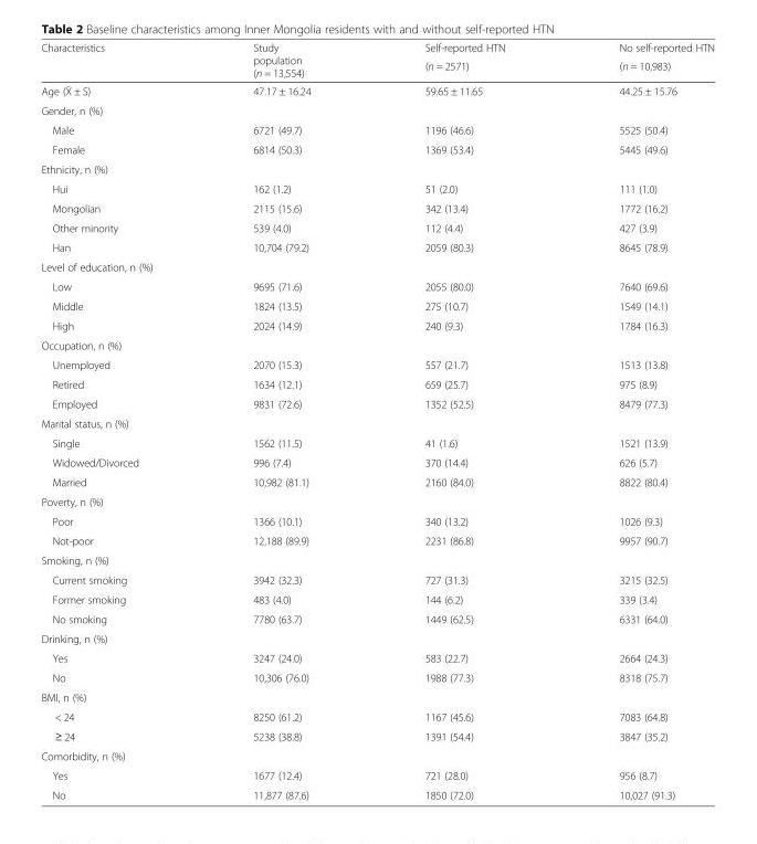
<table><thead><tr><td rowspan="2">Characteristics</td><td rowspan="2">Study population (n = 13,554)</td><td rowspan="2">Self-reported HTN (n = 2571)</td><td rowspan="2">No self-reported HTN (n = 10,983)</td></tr><tr></tr></thead><tbody><tr><td>Age (X̄ ± S)</td><td>47.17 ± 16.24</td><td>59.65 ± 11.65</td><td>44.25 ± 15.76</td></tr><tr><td colspan="4">Gender, n (%)</td></tr><tr><td>Male</td><td>6721 (49.7)</td><td>1196 (46.6)</td><td>5525 (50.4)</td></tr><tr><td>Female</td><td>6814 (50.3)</td><td>1369 (53.4)</td><td>5445 (49.6)</td></tr><tr><td colspan="4">Ethnicity, n (%)</td></tr><tr><td>Hui</td><td>162 (1.2)</td><td>51 (2.0)</td><td>111 (1.0)</td></tr><tr><td>Mongolian</td><td>2115 (15.6)</td><td>342 (13.4)</td><td>1772 (16.2)</td></tr><tr><td>Other minority</td><td>539 (4.0)</td><td>112 (4.4)</td><td>427 (3.9)</td></tr><tr><td>Han</td><td>10,704 (79.2)</td><td>2059 (80.3)</td><td>8645 (78.9)</td></tr><tr><td colspan="4">Level of education, n (%)</td></tr><tr><td>Low</td><td>9695 (71.6)</td><td>2055 (80.0)</td><td>7640 (69.6)</td></tr><tr><td>Middle</td><td>1824 (13.5)</td><td>275 (10.7)</td><td>1549 (14.1)</td></tr><tr><td>High</td><td>2024 (14.9)</td><td>240 (9.3)</td><td>1784 (16.3)</td></tr><tr><td colspan="4">Occupation, n (%)</td></tr><tr><td>Unemployed</td><td>2070 (15.3)</td><td>557 (21.7)</td><td>1513 (13.8)</td></tr><tr><td>Retired</td><td>1634 (12.1)</td><td>659 (25.7)</td><td>975 (8.9)</td></tr><tr><td>Employed</td><td>9831 (72.6)</td><td>1352 (52.5)</td><td>8479 (77.3)</td></tr><tr><td colspan="4">Marital status, n (%)</td></tr><tr><td>Single</td><td>1562 (11.5)</td><td>41 (1.6)</td><td>1521 (13.9)</td></tr><tr><td>Widowed/Divorced</td><td>996 (7.4)</td><td>370 (14.4)</td><td>626 (5.7)</td></tr><tr><td>Married</td><td>10,982 (81.1)</td><td>2160 (84.0)</td><td>8822 (80.4)</td></tr><tr><td colspan="4">Poverty, n (%)</td></tr><tr><td>Poor</td><td>1366 (10.1)</td><td>340 (13.2)</td><td>1026 (9.3)</td></tr><tr><td>Not-poor</td><td>12,188 (89.9)</td><td>2231 (86.8)</td><td>9957 (90.7)</td></tr><tr><td colspan="4">Smoking, n (%)</td></tr><tr><td>Current smoking</td><td>3942 (32.3)</td><td>727 (31.3)</td><td>3215 (32.5)</td></tr><tr><td>Former smoking</td><td>483 (4.0)</td><td>144 (6.2)</td><td>339 (3.4)</td></tr><tr><td>No smoking</td><td>7780 (63.7)</td><td>1449 (62.5)</td><td>6331 (64.0)</td></tr><tr><td colspan="4">Drinking, n (%)</td></tr><tr><td>Yes</td><td>3247 (24.0)</td><td>583 (22.7)</td><td>2664 (24.3)</td></tr><tr><td>No</td><td>10,306 (76.0)</td><td>1988 (77.3)</td><td>8318 (75.7)</td></tr><tr><td colspan="4">BMI, n (%)</td></tr><tr><td>&lt; 24</td><td>8250 (61.2)</td><td>1167 (45.6)</td><td>7083 (64.8)</td></tr><tr><td>≥ 24</td><td>5238 (38.8)</td><td>1391 (54.4)</td><td>3847 (35.2)</td></tr><tr><td colspan="4">Comorbidity, n (%)</td></tr><tr><td>Yes</td><td>1677 (12.4)</td><td>721 (28.0)</td><td>956 (8.7)</td></tr><tr><td>No</td><td>11,877 (87.6)</td><td>1850 (72.0)</td><td>10,027 (91.3)</td></tr></tbody></table>